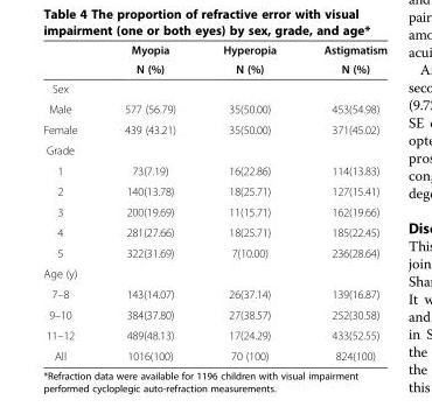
<table><thead><tr><td rowspan="2"></td><td rowspan="2">Myopia N (%)</td><td rowspan="2">Hyperopia N (%)</td><td rowspan="2">Astigmatism N (%)</td></tr><tr></tr></thead><tbody><tr><td colspan="4">Sex</td></tr><tr><td>Male</td><td>577 (56.79)</td><td>35(50.00)</td><td>453(54.98)</td></tr><tr><td>Female</td><td>439 (43.21)</td><td>35(50.00)</td><td>371(45.02)</td></tr><tr><td colspan="4">Grade</td></tr><tr><td>1</td><td>73(7.19)</td><td>16(22.86)</td><td>114(13.83)</td></tr><tr><td>2</td><td>140(13.78)</td><td>18(25.71)</td><td>127(15.41)</td></tr><tr><td>3</td><td>200(19.69)</td><td>11(15.71)</td><td>162(19.66)</td></tr><tr><td>4</td><td>281(27.66)</td><td>18(25.71)</td><td>185(22.45)</td></tr><tr><td>5</td><td>322(31.69)</td><td>7(10.00)</td><td>236(28.64)</td></tr><tr><td colspan="4">Age (y)</td></tr><tr><td>7–8</td><td>143(14.07)</td><td>26(37.14)</td><td>139(16.87)</td></tr><tr><td>9–10</td><td>384(37.80)</td><td>27(38.57)</td><td>252(30.58)</td></tr><tr><td>11–12</td><td>489(48.13)</td><td>17(24.29)</td><td>433(52.55)</td></tr><tr><td>All</td><td>1016(100)</td><td>70 (100)</td><td>824(100)</td></tr></tbody></table>